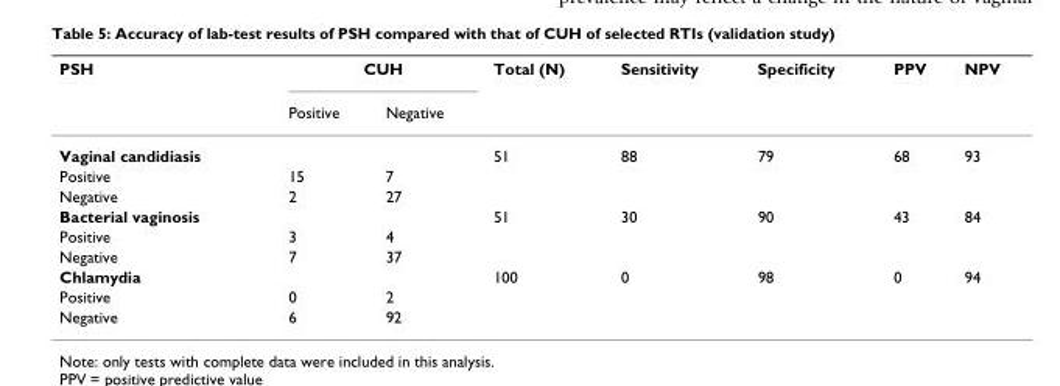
<table><thead><tr><td rowspan="2">PSH</td><td colspan="2">CUH</td><td rowspan="2">Total (N)</td><td rowspan="2">Sensitivity</td><td rowspan="2">Specificity</td><td rowspan="2">PPV</td><td rowspan="2">NPV</td></tr><tr><td>Positive</td><td>Negative</td></tr></thead><tbody><tr><td>Vaginal candidiasis</td><td></td><td></td><td>51</td><td>88</td><td>79</td><td>68</td><td>93</td></tr><tr><td>Positive</td><td>15</td><td>7</td><td></td><td></td><td></td><td></td><td></td></tr><tr><td>Negative</td><td>2</td><td>27</td><td></td><td></td><td></td><td></td><td></td></tr><tr><td>Bacterial vaginosis</td><td></td><td></td><td>51</td><td>30</td><td>90</td><td>43</td><td>84</td></tr><tr><td>Positive</td><td>3</td><td>4</td><td></td><td></td><td></td><td></td><td></td></tr><tr><td>Negative</td><td>7</td><td>37</td><td></td><td></td><td></td><td></td><td></td></tr><tr><td>Chlamydia</td><td></td><td></td><td>100</td><td>0</td><td>98</td><td>0</td><td>94</td></tr><tr><td>Positive</td><td>0</td><td>2</td><td></td><td></td><td></td><td></td><td></td></tr><tr><td>Negative</td><td>6</td><td>92</td><td></td><td></td><td></td><td></td><td></td></tr></tbody></table>